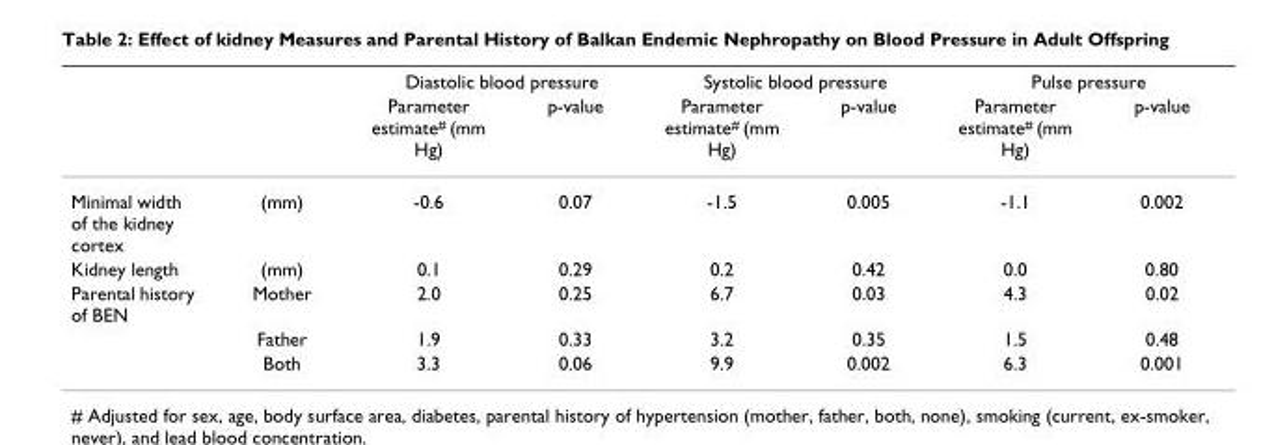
<table><thead><tr><td rowspan="2"></td><td rowspan="2"></td><td colspan="2">Diastolic blood pressure</td><td colspan="2">Systolic blood pressure</td><td colspan="2">Pulse pressure</td></tr><tr><td>Parameter estimate<sup>#</sup> (mm Hg)</td><td>p-value</td><td>Parameter estimate<sup>#</sup> (mm Hg)</td><td>p-value</td><td>Parameter estimate<sup>#</sup> (mm Hg)</td><td>p-value</td></tr></thead><tbody><tr><td>Minimal width of the kidney cortex</td><td>(mm)</td><td>-0.6</td><td>0.07</td><td>-1.5</td><td>0.005</td><td>-1.1</td><td>0.002</td></tr><tr><td>Kidney length</td><td>(mm)</td><td>0.1</td><td>0.29</td><td>0.2</td><td>0.42</td><td>0.0</td><td>0.80</td></tr><tr><td rowspan="3">Parental history of BEN</td><td>Mother</td><td>2.0</td><td>0.25</td><td>6.7</td><td>0.03</td><td>4.3</td><td>0.02</td></tr><tr><td>Father</td><td>1.9</td><td>0.33</td><td>3.2</td><td>0.35</td><td>1.5</td><td>0.48</td></tr><tr><td>Both</td><td>3.3</td><td>0.06</td><td>9.9</td><td>0.002</td><td>6.3</td><td>0.001</td></tr></tbody></table>